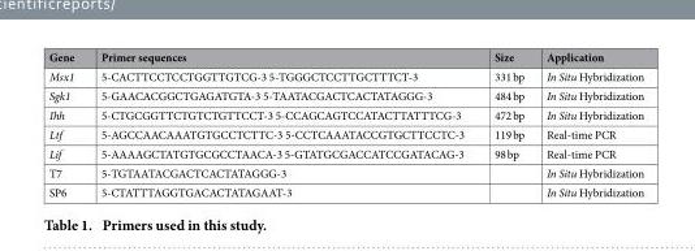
<table><thead><tr><td>Gene</td><td>Primer sequences</td><td>Size</td><td>Application</td></tr></thead><tbody><tr><td>Msx1</td><td>5-CACTTCCTCCTGGTTGTCG-3 5-TGGGCTCCTTGCTTTCT-3</td><td>331 bp</td><td>In Situ Hybridization</td></tr><tr><td>Sgk1</td><td>5-GAACACGGCTGAGATGTA-3 5-TAATACGACTCACTATAGGG-3</td><td>484 bp</td><td>In Situ Hybridization</td></tr><tr><td>Ihh</td><td>5-CTGCGGTTCTGTCTGTTCCT-3 5-CCAGCAGTCCATACTTATTTCG-3</td><td>472 bp</td><td>In Situ Hybridization</td></tr><tr><td>Ltf</td><td>5-AGCCAACAAATGTGCCTCTTC-3 5-CCTCAAATACCGTGCTTCCTC-3</td><td>119 bp</td><td>Real-time PCR</td></tr><tr><td>Lif</td><td>5-AAAAGCTATGTGCGCCTAACA-3 5-GTATGCGACCATCCGATACAG-3</td><td>98 bp</td><td>Real-time PCR</td></tr><tr><td>T7</td><td>5-TGTAATACGACTCACTATAGGG-3</td><td></td><td>In Situ Hybridization</td></tr><tr><td>SP6</td><td>5-CTATTTAGGTGACACTATAGAAT-3</td><td></td><td>In Situ Hybridization</td></tr></tbody></table>